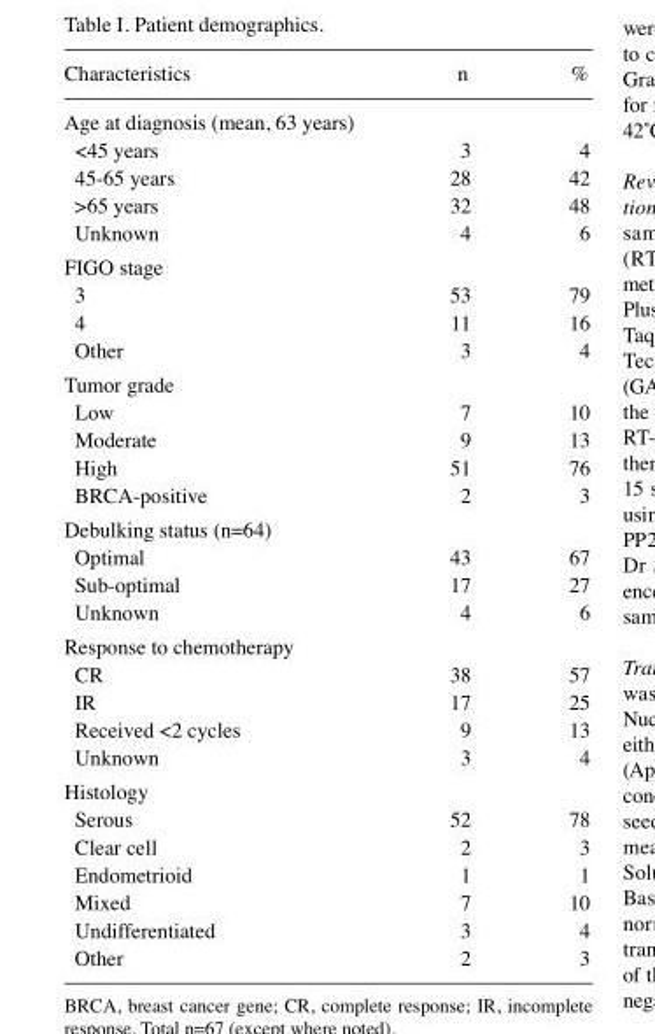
<table><thead><tr><td>Characteristics</td><td>n</td><td>%</td></tr></thead><tbody><tr><td colspan="3">Age at diagnosis (mean, 63 years)</td></tr><tr><td>&lt;45 years</td><td>3</td><td>4</td></tr><tr><td>45-65 years</td><td>28</td><td>42</td></tr><tr><td>&gt;65 years</td><td>32</td><td>48</td></tr><tr><td>Unknown</td><td>4</td><td>6</td></tr><tr><td colspan="3">FIGO stage</td></tr><tr><td>3</td><td>53</td><td>79</td></tr><tr><td>4</td><td>11</td><td>16</td></tr><tr><td>Other</td><td>3</td><td>4</td></tr><tr><td colspan="3">Tumor grade</td></tr><tr><td>Low</td><td>7</td><td>10</td></tr><tr><td>Moderate</td><td>9</td><td>13</td></tr><tr><td>High</td><td>51</td><td>76</td></tr><tr><td>BRCA-positive</td><td>2</td><td>3</td></tr><tr><td colspan="3">Debulking status (n=64)</td></tr><tr><td>Optimal</td><td>43</td><td>67</td></tr><tr><td>Sub-optimal</td><td>17</td><td>27</td></tr><tr><td>Unknown</td><td>4</td><td>6</td></tr><tr><td colspan="3">Response to chemotherapy</td></tr><tr><td>CR</td><td>38</td><td>57</td></tr><tr><td>IR</td><td>17</td><td>25</td></tr><tr><td>Received &lt;2 cycles</td><td>9</td><td>13</td></tr><tr><td>Unknown</td><td>3</td><td>4</td></tr><tr><td colspan="3">Histology</td></tr><tr><td>Serous</td><td>52</td><td>78</td></tr><tr><td>Clear cell</td><td>2</td><td>3</td></tr><tr><td>Endometrioid</td><td>1</td><td>1</td></tr><tr><td>Mixed</td><td>7</td><td>10</td></tr><tr><td>Undifferentiated</td><td>3</td><td>4</td></tr><tr><td>Other</td><td>2</td><td>3</td></tr></tbody></table>